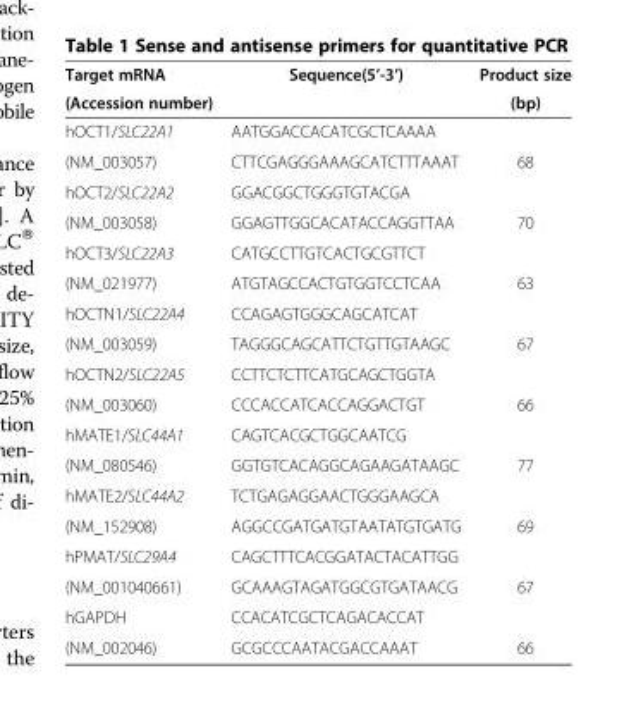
<table><thead><tr><td rowspan="2">Target mRNA (Accession number)</td><td rowspan="2">Sequence(5’-3’)</td><td rowspan="2">Product size (bp)</td></tr><tr></tr></thead><tbody><tr><td>hOCT1/SLC22A1</td><td>AATGGACCACATCGCTCAAAA</td><td></td></tr><tr><td>(NM_003057)</td><td>CTTCGAGGGAAAGCATCTTTAAAT</td><td>68</td></tr><tr><td>hOCT2/SLC22A2</td><td>GGACGGCTGGGTGTACGA</td><td></td></tr><tr><td>(NM_003058)</td><td>GGAGTTGGCACATACCAGGTTAA</td><td>70</td></tr><tr><td>hOCT3/SLC22A3</td><td>CATGCCTTGTCACTGCGTTCT</td><td></td></tr><tr><td>(NM_021977)</td><td>ATGTAGCCACTGTGGTCCTCAA</td><td>63</td></tr><tr><td>hOCTN1/SLC22A4</td><td>CCAGAGTGGGCAGCATCAT</td><td></td></tr><tr><td>(NM_003059)</td><td>TAGGGCAGCATTCTGTTGTAAGC</td><td>67</td></tr><tr><td>hOCTN2/SLC22A5</td><td>CCTTCTCTTCATGCAGCTGGTA</td><td></td></tr><tr><td>(NM_003060)</td><td>CCCACCATCACCAGGACTGT</td><td>66</td></tr><tr><td>hMATE1/SLC44A1</td><td>CAGTCACGCTGGCAATCG</td><td></td></tr><tr><td>(NM_080546)</td><td>GGTGTCACAGGCAGAAGATAAGC</td><td>77</td></tr><tr><td>hMATE2/SLC44A2</td><td>TCTGAGAGGAACTGGGAAGCA</td><td></td></tr><tr><td>(NM_152908)</td><td>AGGCCGATGATGTAATATGTGATG</td><td>69</td></tr><tr><td>hPMAT/SLC29A4</td><td>CAGCTTTCACGGATACTACATTGG</td><td></td></tr><tr><td>(NM_001040661)</td><td>GCAAAGTAGATGGCGTGATAACG</td><td>67</td></tr><tr><td>hGAPDH</td><td>CCACATCGCTCAGACACCAT</td><td></td></tr><tr><td>(NM_002046)</td><td>GCGCCCAATACGACCAAAT</td><td>66</td></tr></tbody></table>